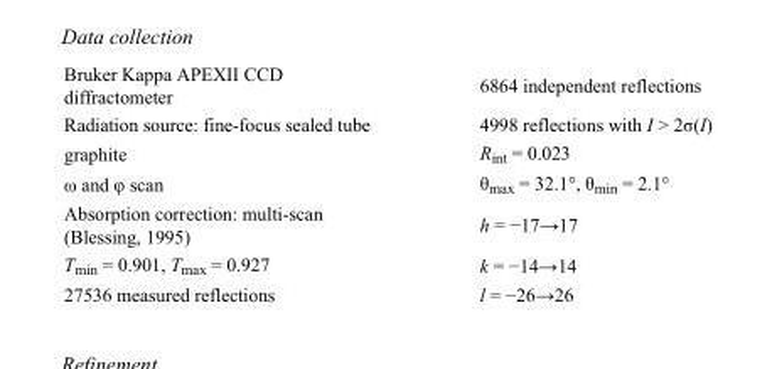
<table><tbody><tr><td>Bruker Kappa APEXII CCD diffractometer</td><td>6864 independent reflections</td></tr><tr><td>Radiation source: fine-focus sealed tube</td><td>4998 reflections with I &gt; 2σ(I)</td></tr><tr><td>graphite</td><td>R<sub>int</sub> = 0.023</td></tr><tr><td>ω and φ scan</td><td>θ<sub>max</sub> = 32.1°, θ<sub>min</sub> = 2.1°</td></tr><tr><td>Absorption correction: multi-scan (Blessing, 1995)</td><td>h = −17→17</td></tr><tr><td>T<sub>min</sub> = 0.901, T<sub>max</sub> = 0.927</td><td>k = −14→14</td></tr><tr><td>27536 measured reflections</td><td>l = −26→26</td></tr></tbody></table>